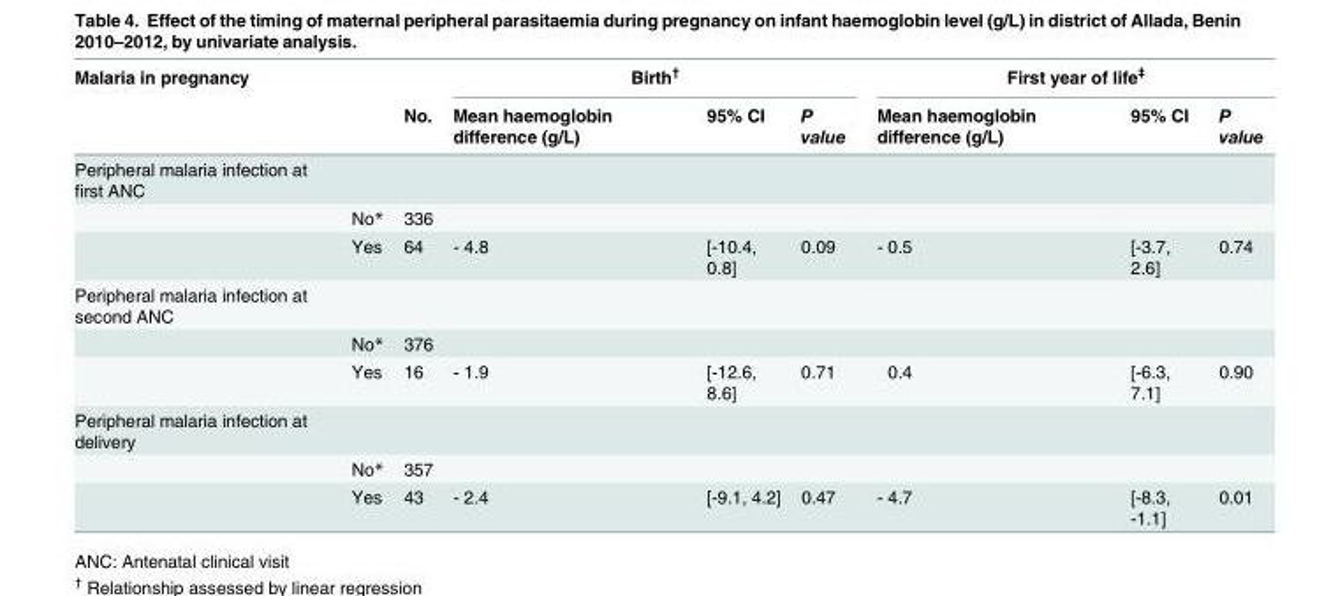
<table><thead><tr><td rowspan="2">Malaria in pregnancy</td><td rowspan="2"></td><td rowspan="2">No.</td><td colspan="3">Birth<sup>†</sup></td><td colspan="3">First year of life<sup>‡</sup></td></tr><tr><td>Mean haemoglobin difference (g/L)</td><td>95% CI</td><td>P value</td><td>Mean haemoglobin difference (g/L)</td><td>95% CI</td><td>P value</td></tr></thead><tbody><tr><td colspan="9">Peripheral malaria infection at first ANC</td></tr><tr><td></td><td>No*</td><td>336</td><td></td><td></td><td></td><td></td><td></td><td></td></tr><tr><td></td><td>Yes</td><td>64</td><td>- 4.8</td><td>[-10.4, 0.8]</td><td>0.09</td><td>- 0.5</td><td>[-3.7, 2.6]</td><td>0.74</td></tr><tr><td colspan="9">Peripheral malaria infection at second ANC</td></tr><tr><td></td><td>No*</td><td>376</td><td></td><td></td><td></td><td></td><td></td><td></td></tr><tr><td></td><td>Yes</td><td>16</td><td>- 1.9</td><td>[-12.6, 8.6]</td><td>0.71</td><td>0.4</td><td>[-6.3, 7.1]</td><td>0.90</td></tr><tr><td colspan="9">Peripheral malaria infection at delivery</td></tr><tr><td></td><td>No*</td><td>357</td><td></td><td></td><td></td><td></td><td></td><td></td></tr><tr><td></td><td>Yes</td><td>43</td><td>- 2.4</td><td>[-9.1, 4.2]</td><td>0.47</td><td>- 4.7</td><td>[-8.3, -1.1]</td><td>0.01</td></tr></tbody></table>